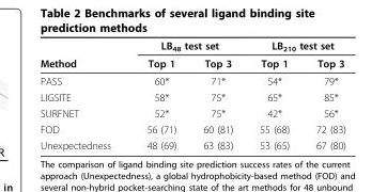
<table><thead><tr><td rowspan="2">Method</td><td colspan="2">LB<sub>48</sub> test set</td><td colspan="2">LB<sub>210</sub> test set</td></tr><tr><td>Top 1</td><td>Top 3</td><td>Top 1</td><td>Top 3</td></tr></thead><tbody><tr><td>PASS</td><td>60*</td><td>71*</td><td>54*</td><td>79*</td></tr><tr><td>LIGSITE</td><td>58*</td><td>75*</td><td>65*</td><td>85*</td></tr><tr><td>SURFNET</td><td>52*</td><td>75*</td><td>42*</td><td>56*</td></tr><tr><td>FOD</td><td>56 (71)</td><td>60 (81)</td><td>55 (68)</td><td>72 (83)</td></tr><tr><td>Unexpectedness</td><td>48 (69)</td><td>63 (83)</td><td>53 (65)</td><td>67 (80)</td></tr></tbody></table>